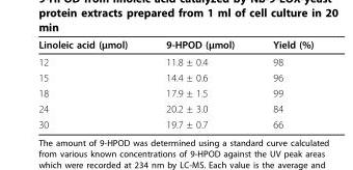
<table><thead><tr><td>Linoleic acid (μmol)</td><td>9-HPOD (μmol)</td><td>Yield (%)</td></tr></thead><tbody><tr><td>12</td><td>11.8 ± 0.4</td><td>98</td></tr><tr><td>15</td><td>14.4 ± 0.6</td><td>96</td></tr><tr><td>18</td><td>17.9 ± 1.5</td><td>99</td></tr><tr><td>24</td><td>20.2 ± 3.0</td><td>84</td></tr><tr><td>30</td><td>19.7 ± 0.7</td><td>66</td></tr></tbody></table>